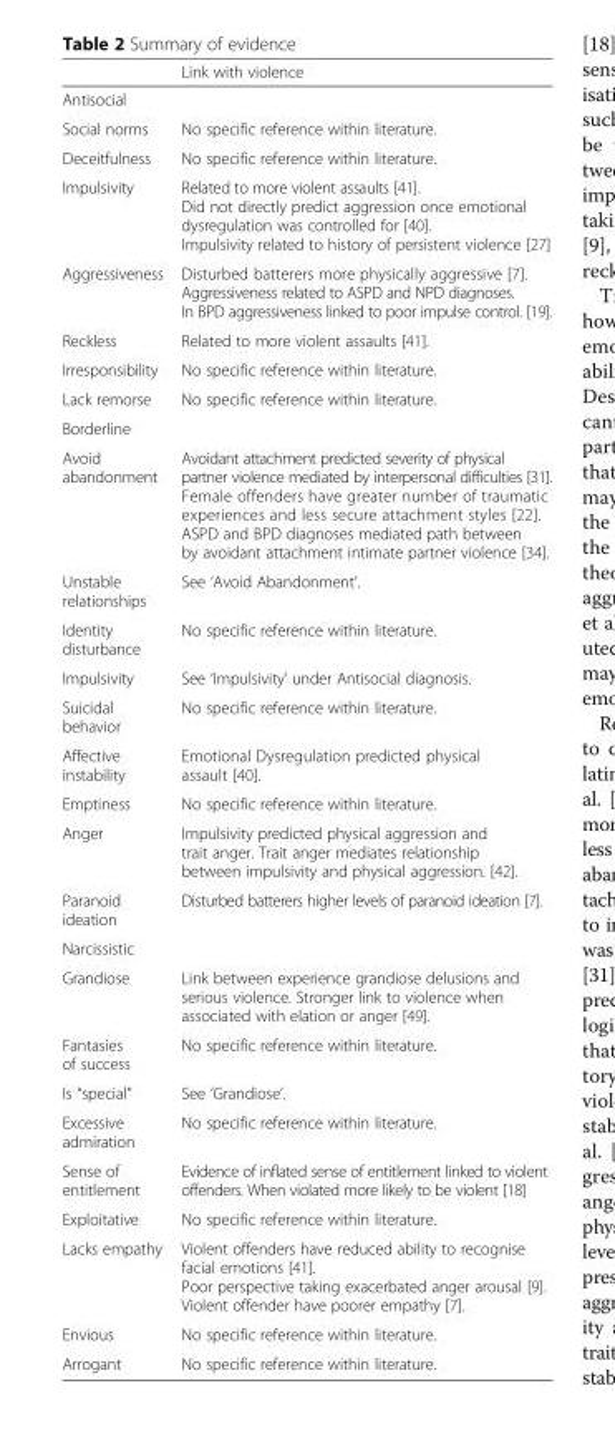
<table><thead><tr><td></td><td>Link with violence</td></tr></thead><tbody><tr><td colspan="2">Antisocial</td></tr><tr><td>Social norms</td><td>No specific reference within literature.</td></tr><tr><td>Deceitfulness</td><td>No specific reference within literature.</td></tr><tr><td>Impulsivity</td><td>Related to more violent assaults [41]. Did not directly predict aggression once emotional dysregulation was controlled for [40]. Impulsivity related to history of persistent violence [27]</td></tr><tr><td>Aggressiveness</td><td>Disturbed batterers more physically aggressive [7]. Aggressiveness related to ASPD and NPD diagnoses. In BPD aggressiveness linked to poor impulse control. [19].</td></tr><tr><td>Reckless</td><td>Related to more violent assaults [41].</td></tr><tr><td>Irresponsibility</td><td>No specific reference within literature.</td></tr><tr><td>Lack remorse</td><td>No specific reference within literature.</td></tr><tr><td colspan="2">Borderline</td></tr><tr><td>Avoid abandonment</td><td>Avoidant attachment predicted severity of physical partner violence mediated by interpersonal difficulties [31]. Female offenders have greater number of traumatic experiences and less secure attachment styles [22]. ASPD and BPD diagnoses mediated path between by avoidant attachment intimate partner violence [34].</td></tr><tr><td>Unstable relationships</td><td>See ‘Avoid Abandonment’.</td></tr><tr><td>Identity disturbance</td><td>No specific reference within literature.</td></tr><tr><td>Impulsivity</td><td>See ‘Impulsivity’ under Antisocial diagnosis.</td></tr><tr><td>Suicidal behavior</td><td>No specific reference within literature.</td></tr><tr><td>Affective instability</td><td>Emotional Dysregulation predicted physical assault [40].</td></tr><tr><td>Emptiness</td><td>No specific reference within literature.</td></tr><tr><td>Anger</td><td>Impulsivity predicted physical aggression and trait anger. Trait anger mediates relationship between impulsivity and physical aggression. [42].</td></tr><tr><td>Paranoid ideation</td><td>Disturbed batterers higher levels of paranoid ideation [7].</td></tr><tr><td colspan="2">Narcissistic</td></tr><tr><td>Grandiose</td><td>Link between experience grandiose delusions and serious violence. Stronger link to violence when associated with elation or anger [49].</td></tr><tr><td>Fantasies of success</td><td>No specific reference within literature.</td></tr><tr><td>Is “special”</td><td>See ‘Grandiose’.</td></tr><tr><td>Excessive admiration</td><td>No specific reference within literature.</td></tr><tr><td>Sense of entitlement</td><td>Evidence of inflated sense of entitlement linked to violent offenders. When violated more likely to be violent [18]</td></tr><tr><td>Exploitative</td><td>No specific reference within literature.</td></tr><tr><td>Lacks empathy</td><td>Violent offenders have reduced ability to recognise facial emotions [41]. Poor perspective taking exacerbated anger arousal [9]. Violent offender have poorer empathy [7].</td></tr><tr><td>Envious</td><td>No specific reference within literature.</td></tr><tr><td>Arrogant</td><td>No specific reference within literature.</td></tr></tbody></table>